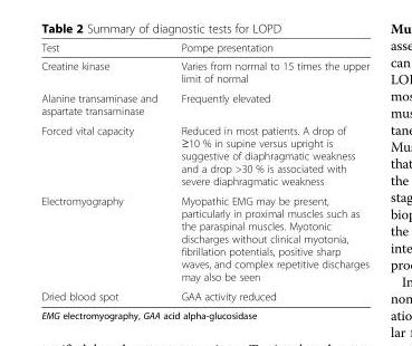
<table><thead><tr><td>Test</td><td>Pompe presentation</td></tr></thead><tbody><tr><td>Creatine kinase</td><td>Varies from normal to 15 times the upper limit of normal</td></tr><tr><td>Alanine transaminase and aspartate transaminase</td><td>Frequently elevated</td></tr><tr><td>Forced vital capacity</td><td>Reduced in most patients. A drop of ≥10 % in supine versus upright is suggestive of diaphragmatic weakness and a drop &gt;30 % is associated with severe diaphragmatic weakness</td></tr><tr><td>Electromyography</td><td>Myopathic EMG may be present, particularly in proximal muscles such as the paraspinal muscles. Myotonic discharges without clinical myotonia, fibrillation potentials, positive sharp waves, and complex repetitive discharges may also be seen</td></tr><tr><td>Dried blood spot</td><td>GAA activity reduced</td></tr></tbody></table>